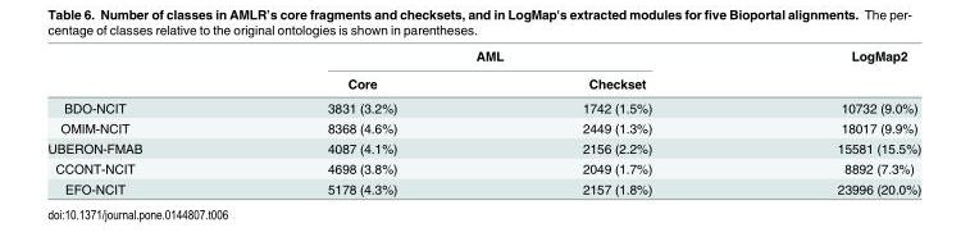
<table><thead><tr><td rowspan="2"></td><td colspan="2">AML</td><td rowspan="2">LogMap2</td></tr><tr><td>Core</td><td>Checkset</td></tr></thead><tbody><tr><td>BDO-NCIT</td><td>3831 (3.2%)</td><td>1742 (1.5%)</td><td>10732 (9.0%)</td></tr><tr><td>OMIM-NCIT</td><td>8368 (4.6%)</td><td>2449 (1.3%)</td><td>18017 (9.9%)</td></tr><tr><td>UBERON-FMAB</td><td>4087 (4.1%)</td><td>2156 (2.2%)</td><td>15581 (15.5%)</td></tr><tr><td>CCONT-NCIT</td><td>4698 (3.8%)</td><td>2049 (1.7%)</td><td>8892 (7.3%)</td></tr><tr><td>EFO-NCIT</td><td>5178 (4.3%)</td><td>2157 (1.8%)</td><td>23996 (20.0%)</td></tr></tbody></table>